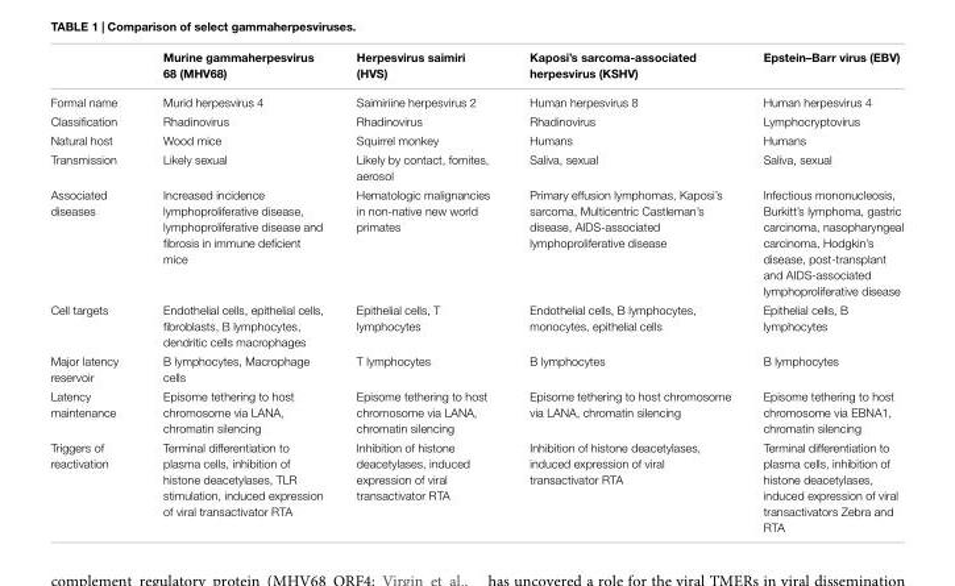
<table><thead><tr><td></td><td>Murine gammaherpesvirus 68 (MHV68)</td><td>Herpesvirus saimiri (HVS)</td><td>Kaposi’s sarcoma-associated herpesvirus (KSHV)</td><td>Epstein–Barr virus (EBV)</td></tr></thead><tbody><tr><td>Formal name</td><td>Murid herpesvirus 4</td><td>Saimiriine herpesvirus 2</td><td>Human herpesvirus 8</td><td>Human herpesvirus 4</td></tr><tr><td>Classification</td><td>Rhadinovirus</td><td>Rhadinovirus</td><td>Rhadinovirus</td><td>Lymphocryptovirus</td></tr><tr><td>Natural host</td><td>Wood mice</td><td>Squirrel monkey</td><td>Humans</td><td>Humans</td></tr><tr><td>Transmission</td><td>Likely sexual</td><td>Likely by contact, fomites, aerosol</td><td>Saliva, sexual</td><td>Saliva, sexual</td></tr><tr><td>Associated diseases</td><td>Increased incidence lymphoproliferative disease, lymphoproliferative disease and fibrosis in immune deficient mice</td><td>Hematologic malignancies in non-native new world primates</td><td>Primary effusion lymphomas, Kaposi’s sarcoma, Multicentric Castleman’s disease, AIDS-associated lymphoproliferative disease</td><td>Infectious mononucleosis, Burkitt’s lymphoma, gastric carcinoma, nasopharyngeal carcinoma, Hodgkin’s disease, post-transplant and AIDS-associated lymphoproliferative disease</td></tr><tr><td>Cell targets</td><td>Endothelial cells, epithelial cells, fibroblasts, B lymphocytes, dendritic cells macrophages</td><td>Epithelial cells, T lymphocytes</td><td>Endothelial cells, B lymphocytes, monocytes, epithelial cells</td><td>Epithelial cells, B lymphocytes</td></tr><tr><td>Major latency reservoir</td><td>B lymphocytes, Macrophage cells</td><td>T lymphocytes</td><td>B lymphocytes</td><td>B lymphocytes</td></tr><tr><td>Latency maintenance</td><td>Episome tethering to host chromosome via LANA, chromatin silencing</td><td>Episome tethering to host chromosome via LANA, chromatin silencing</td><td>Episome tethering to host chromosome via LANA, chromatin silencing</td><td>Episome tethering to host chromosome via EBNA1, chromatin silencing</td></tr><tr><td>Triggers of reactivation</td><td>Terminal differentiation to plasma cells, inhibition of histone deacetylases, TLR stimulation, induced expression of viral transactivator RTA</td><td>Inhibition of histone deacetylases, induced expression of viral transactivator RTA</td><td>Inhibition of histone deacetylases, induced expression of viral transactivator RTA</td><td>Terminal differentiation to plasma cells, inhibition of histone deacetylases, induced expression of viral transactivators Zebra and RTA</td></tr></tbody></table>